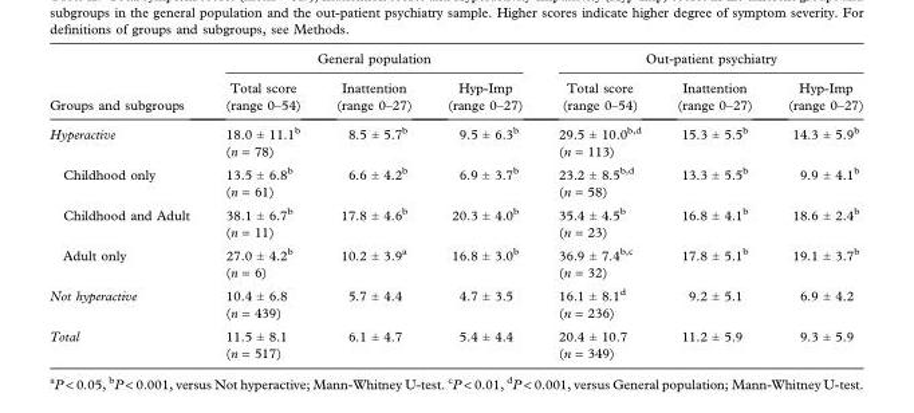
<table><thead><tr><td rowspan="2">Groups and subgroups</td><td colspan="3">General population</td><td colspan="3">Out-patient psychiatry</td></tr><tr><td>Total score (range 0–54)</td><td>Inattention (range 0–27)</td><td>Hyp-Imp (range 0–27)</td><td>Total score (range 0–54)</td><td>Inattention (range 0–27)</td><td>Hyp-Imp (range 0–27)</td></tr></thead><tbody><tr><td>Hyperactive</td><td>18.0 ± 11.1<sup>b</sup> (n = 78)</td><td>8.5 ± 5.7<sup>b</sup></td><td>9.5 ± 6.3<sup>b</sup></td><td>29.5 ± 10.0<sup>b,d</sup> (n = 113)</td><td>15.3 ± 5.5<sup>b</sup></td><td>14.3 ± 5.9<sup>b</sup></td></tr><tr><td>Childhood only</td><td>13.5 ± 6.8<sup>b</sup> (n = 61)</td><td>6.6 ± 4.2<sup>b</sup></td><td>6.9 ± 3.7<sup>b</sup></td><td>23.2 ± 8.5<sup>b,d</sup> (n = 58)</td><td>13.3 ± 5.5<sup>b</sup></td><td>9.9 ± 4.1<sup>b</sup></td></tr><tr><td>Childhood and Adult</td><td>38.1 ± 6.7<sup>b</sup> (n = 11)</td><td>17.8 ± 4.6<sup>b</sup></td><td>20.3 ± 4.0<sup>b</sup></td><td>35.4 ± 4.5<sup>b</sup> (n = 23)</td><td>16.8 ± 4.1<sup>b</sup></td><td>18.6 ± 2.4<sup>b</sup></td></tr><tr><td>Adult only</td><td>27.0 ± 4.2<sup>b</sup> (n = 6)</td><td>10.2 ± 3.9<sup>a</sup></td><td>16.8 ± 3.0<sup>b</sup></td><td>36.9 ± 7.4<sup>b,c</sup> (n = 32)</td><td>17.8 ± 5.1<sup>b</sup></td><td>19.1 ± 3.7<sup>b</sup></td></tr><tr><td>Not hyperactive</td><td>10.4 ± 6.8 (n = 439)</td><td>5.7 ± 4.4</td><td>4.7 ± 3.5</td><td>16.1 ± 8.1<sup>d</sup> (n = 236)</td><td>9.2 ± 5.1</td><td>6.9 ± 4.2</td></tr><tr><td>Total</td><td>11.5 ± 8.1 (n = 517)</td><td>6.1 ± 4.7</td><td>5.4 ± 4.4</td><td>20.4 ± 10.7 (n = 349)</td><td>11.2 ± 5.9</td><td>9.3 ± 5.9</td></tr></tbody></table>